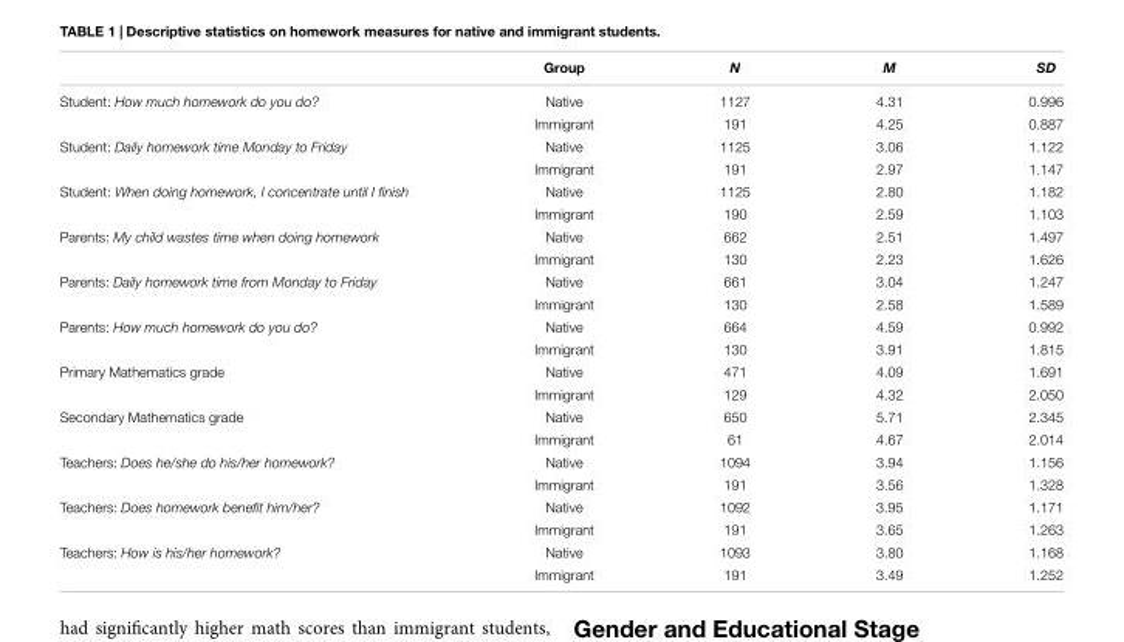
<table><thead><tr><td></td><td>Group</td><td>N</td><td>M</td><td>SD</td></tr></thead><tbody><tr><td rowspan="2">Student: How much homework do you do?</td><td>Native</td><td>1127</td><td>4.31</td><td>0.996</td></tr><tr><td>Immigrant</td><td>191</td><td>4.25</td><td>0.887</td></tr><tr><td rowspan="2">Student: Daily homework time Monday to Friday</td><td>Native</td><td>1125</td><td>3.06</td><td>1.122</td></tr><tr><td>Immigrant</td><td>191</td><td>2.97</td><td>1.147</td></tr><tr><td rowspan="2">Student: When doing homework, I concentrate until I finish</td><td>Native</td><td>1125</td><td>2.80</td><td>1.182</td></tr><tr><td>Immigrant</td><td>190</td><td>2.59</td><td>1.103</td></tr><tr><td rowspan="2">Parents: My child wastes time when doing homework</td><td>Native</td><td>662</td><td>2.51</td><td>1.497</td></tr><tr><td>Immigrant</td><td>130</td><td>2.23</td><td>1.626</td></tr><tr><td rowspan="2">Parents: Daily homework time from Monday to Friday</td><td>Native</td><td>661</td><td>3.04</td><td>1.247</td></tr><tr><td>Immigrant</td><td>130</td><td>2.58</td><td>1.589</td></tr><tr><td rowspan="2">Parents: How much homework do you do?</td><td>Native</td><td>664</td><td>4.59</td><td>0.992</td></tr><tr><td>Immigrant</td><td>130</td><td>3.91</td><td>1.815</td></tr><tr><td rowspan="2">Primary Mathematics grade</td><td>Native</td><td>471</td><td>4.09</td><td>1.691</td></tr><tr><td>Immigrant</td><td>129</td><td>4.32</td><td>2.050</td></tr><tr><td rowspan="2">Secondary Mathematics grade</td><td>Native</td><td>650</td><td>5.71</td><td>2.345</td></tr><tr><td>Immigrant</td><td>61</td><td>4.67</td><td>2.014</td></tr><tr><td rowspan="2">Teachers: Does he/she do his/her homework?</td><td>Native</td><td>1094</td><td>3.94</td><td>1.156</td></tr><tr><td>Immigrant</td><td>191</td><td>3.56</td><td>1.328</td></tr><tr><td rowspan="2">Teachers: Does homework benefit him/her?</td><td>Native</td><td>1092</td><td>3.95</td><td>1.171</td></tr><tr><td>Immigrant</td><td>191</td><td>3.65</td><td>1.263</td></tr><tr><td rowspan="2">Teachers: How is his/her homework?</td><td>Native</td><td>1093</td><td>3.80</td><td>1.168</td></tr><tr><td>Immigrant</td><td>191</td><td>3.49</td><td>1.252</td></tr></tbody></table>